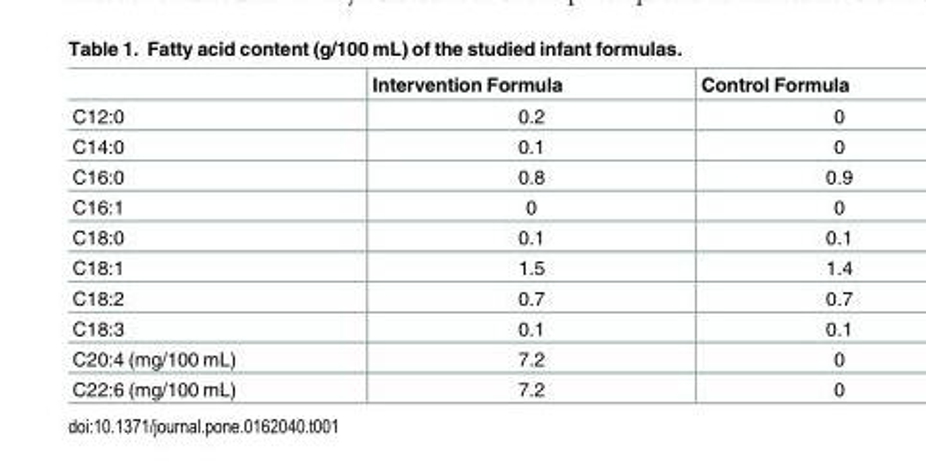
<table><thead><tr><td></td><td>Intervention Formula</td><td>Control Formula</td></tr></thead><tbody><tr><td>C12:0</td><td>0.2</td><td>0</td></tr><tr><td>C14:0</td><td>0.1</td><td>0</td></tr><tr><td>C16:0</td><td>0.8</td><td>0.9</td></tr><tr><td>C16:1</td><td>0</td><td>0</td></tr><tr><td>C18:0</td><td>0.1</td><td>0.1</td></tr><tr><td>C18:1</td><td>1.5</td><td>1.4</td></tr><tr><td>C18:2</td><td>0.7</td><td>0.7</td></tr><tr><td>C18:3</td><td>0.1</td><td>0.1</td></tr><tr><td>C20:4 (mg/100 mL)</td><td>7.2</td><td>0</td></tr><tr><td>C22:6 (mg/100 mL)</td><td>7.2</td><td>0</td></tr></tbody></table>